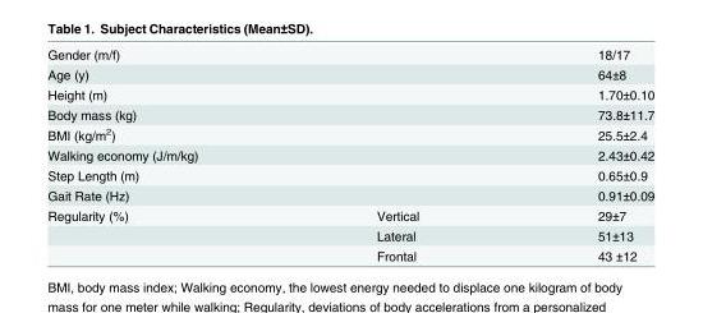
<table><tbody><tr><td>Gender (m/f)</td><td></td><td>18/17</td></tr><tr><td>Age (y)</td><td></td><td>64±8</td></tr><tr><td>Height (m)</td><td></td><td>1.70±0.10</td></tr><tr><td>Body mass (kg)</td><td></td><td>73.8±11.7</td></tr><tr><td>BMI (kg/m<sup>2</sup>)</td><td></td><td>25.5±2.4</td></tr><tr><td>Walking economy (J/m/kg)</td><td></td><td>2.43±0.42</td></tr><tr><td>Step Length (m)</td><td></td><td>0.65±0.9</td></tr><tr><td>Gait Rate (Hz)</td><td></td><td>0.91±0.09</td></tr><tr><td rowspan="3">Regularity (%)</td><td>Vertical</td><td>29±7</td></tr><tr><td>Lateral</td><td>51±13</td></tr><tr><td>Frontal</td><td>43 ±12</td></tr></tbody></table>